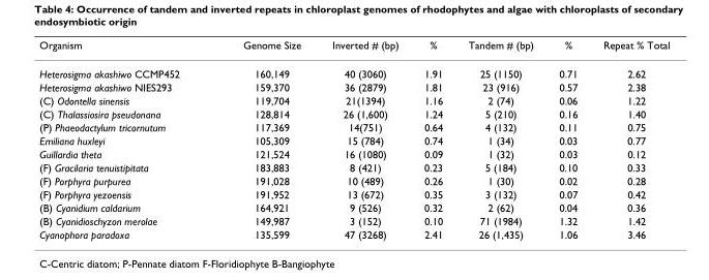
<table><thead><tr><td>Organism</td><td>Genome Size</td><td>Inverted # (bp)</td><td>%</td><td>Tandem # (bp)</td><td>%</td><td>Repeat % Total</td></tr></thead><tbody><tr><td>Heterosigma akashiwo CCMP452</td><td>160,149</td><td>40 (3060)</td><td>1.91</td><td>25 (1150)</td><td>0.71</td><td>2.62</td></tr><tr><td>Heterosigma akashiwo NIES293</td><td>159,370</td><td>36 (2879)</td><td>1.81</td><td>23 (916)</td><td>0.57</td><td>2.38</td></tr><tr><td>(C) Odontella sinensis</td><td>119,704</td><td>21(1394)</td><td>1.16</td><td>2 (74)</td><td>0.06</td><td>1.22</td></tr><tr><td>(C) Thalassiosira pseudonana</td><td>128,814</td><td>26 (1,600)</td><td>1.24</td><td>5 (210)</td><td>0.16</td><td>1.40</td></tr><tr><td>(P) Phaeodactylum tricornutum</td><td>117,369</td><td>14(751)</td><td>0.64</td><td>4 (132)</td><td>0.11</td><td>0.75</td></tr><tr><td>Emiliana huxleyi</td><td>105,309</td><td>15 (784)</td><td>0.74</td><td>1 (34)</td><td>0.03</td><td>0.77</td></tr><tr><td>Guillardia theta</td><td>121,524</td><td>16 (1080)</td><td>0.09</td><td>1 (32)</td><td>0.03</td><td>0.12</td></tr><tr><td>(F) Gracilaria tenuistipitata</td><td>183,883</td><td>8 (421)</td><td>0.23</td><td>5 (184)</td><td>0.10</td><td>0.33</td></tr><tr><td>(F) Porphyra purpurea</td><td>191,028</td><td>10 (489)</td><td>0.26</td><td>1 (30)</td><td>0.02</td><td>0.28</td></tr><tr><td>(F) Porphyra yezoensis</td><td>191,952</td><td>13 (672)</td><td>0.35</td><td>3 (132)</td><td>0.07</td><td>0.42</td></tr><tr><td>(B) Cyanidium caldarium</td><td>164,921</td><td>9 (526)</td><td>0.32</td><td>2 (62)</td><td>0.04</td><td>0.36</td></tr><tr><td>(B) Cyanidioschyzon merolae</td><td>149,987</td><td>3 (152)</td><td>0.10</td><td>71 (1984)</td><td>1.32</td><td>1.42</td></tr><tr><td>Cyanophora paradoxa</td><td>135,599</td><td>47 (3268)</td><td>2.41</td><td>26 (1,435)</td><td>1.06</td><td>3.46</td></tr></tbody></table>